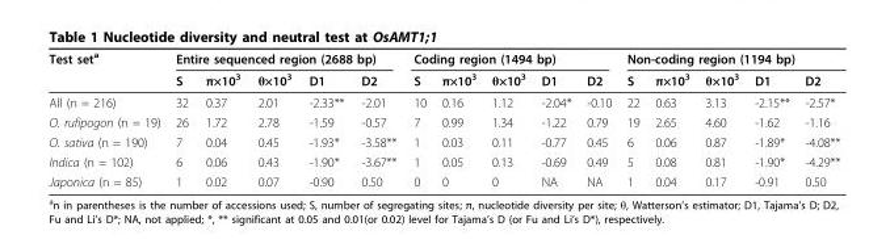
<table><thead><tr><td rowspan="2">Test set<sup>a</sup></td><td colspan="5">Entire sequenced region (2688 bp)</td><td colspan="5">Coding region (1494 bp)</td><td colspan="5">Non-coding region (1194 bp)</td></tr><tr><td>S</td><td>π×10<sup>3</sup></td><td>θ×10<sup>3</sup></td><td>D1</td><td>D2</td><td>S</td><td>π×10<sup>3</sup></td><td>θ×10<sup>3</sup></td><td>D1</td><td>D2</td><td>S</td><td>π×10<sup>3</sup></td><td>θ×10<sup>3</sup></td><td>D1</td><td>D2</td></tr></thead><tbody><tr><td>All (n = 216)</td><td>32</td><td>0.37</td><td>2.01</td><td>-2.33**</td><td>-2.01</td><td>10</td><td>0.16</td><td>1.12</td><td>-2.04*</td><td>-0.10</td><td>22</td><td>0.63</td><td>3.13</td><td>-2.15**</td><td>-2.57*</td></tr><tr><td>O. rufipogon (n = 19)</td><td>26</td><td>1.72</td><td>2.78</td><td>-1.59</td><td>-0.57</td><td>7</td><td>0.99</td><td>1.34</td><td>-1.22</td><td>0.79</td><td>19</td><td>2.65</td><td>4.60</td><td>-1.62</td><td>-1.16</td></tr><tr><td>O. sativa (n = 190)</td><td>7</td><td>0.04</td><td>0.45</td><td>-1.93*</td><td>-3.58**</td><td>1</td><td>0.03</td><td>0.11</td><td>-0.77</td><td>0.45</td><td>6</td><td>0.06</td><td>0.87</td><td>-1.89*</td><td>-4.08**</td></tr><tr><td>Indica (n = 102)</td><td>6</td><td>0.06</td><td>0.43</td><td>-1.90*</td><td>-3.67**</td><td>1</td><td>0.05</td><td>0.13</td><td>-0.69</td><td>0.49</td><td>5</td><td>0.08</td><td>0.81</td><td>-1.90*</td><td>-4.29**</td></tr><tr><td>Japonica (n = 85)</td><td>1</td><td>0.02</td><td>0.07</td><td>-0.90</td><td>0.50</td><td>0</td><td>0</td><td>0</td><td>NA</td><td>NA</td><td>1</td><td>0.04</td><td>0.17</td><td>-0.91</td><td>0.50</td></tr></tbody></table>